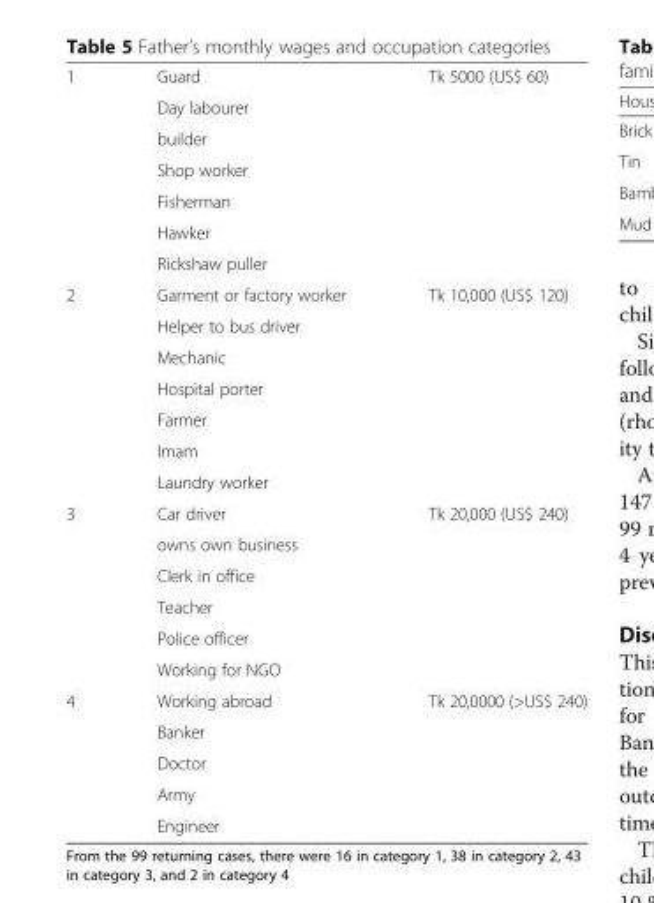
<table><tbody><tr><td rowspan="7">1</td><td>Guard</td><td rowspan="7">Tk 5000 (US$ 60)</td></tr><tr><td>Day labourer</td></tr><tr><td>builder</td></tr><tr><td>Shop worker</td></tr><tr><td>Fisherman</td></tr><tr><td>Hawker</td></tr><tr><td>Rickshaw puller</td></tr><tr><td rowspan="7">2</td><td>Garment or factory worker</td><td rowspan="7">Tk 10,000 (US$ 120)</td></tr><tr><td>Helper to bus driver</td></tr><tr><td>Mechanic</td></tr><tr><td>Hospital porter</td></tr><tr><td>Farmer</td></tr><tr><td>Imam</td></tr><tr><td>Laundry worker</td></tr><tr><td rowspan="6">3</td><td>Car driver</td><td rowspan="6">Tk 20,000 (US$ 240)</td></tr><tr><td>owns own business</td></tr><tr><td>Clerk in office</td></tr><tr><td>Teacher</td></tr><tr><td>Police officer</td></tr><tr><td>Working for NGO</td></tr><tr><td rowspan="5">4</td><td>Working abroad</td><td rowspan="5">Tk 20,0000 (&gt;US$ 240)</td></tr><tr><td>Banker</td></tr><tr><td>Doctor</td></tr><tr><td>Army</td></tr><tr><td>Engineer</td></tr></tbody></table>